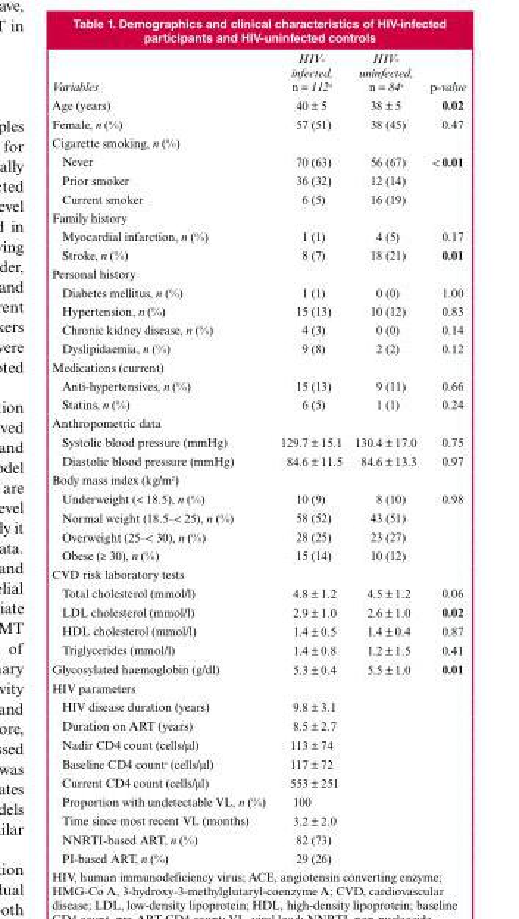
<table><thead><tr><td>Variables</td><td>HIV- infected, n = 112<sup>a</sup></td><td>HIV- uninfected, n = 84<sup>a</sup></td><td>p-value</td></tr></thead><tbody><tr><td>Age (years)</td><td>40 ± 5</td><td>38 ± 5</td><td>0.02</td></tr><tr><td>Female, n (%)</td><td>57 (51)</td><td>38 (45)</td><td>0.47</td></tr><tr><td colspan="4">Cigarette smoking, n (%)</td></tr><tr><td>Never</td><td>70 (63)</td><td>56 (67)</td><td>&lt; 0.01</td></tr><tr><td>Prior smoker</td><td>36 (32)</td><td>12 (14)</td><td></td></tr><tr><td>Current smoker</td><td>6 (5)</td><td>16 (19)</td><td></td></tr><tr><td colspan="4">Family history</td></tr><tr><td>Myocardial infarction, n (%)</td><td>1 (1)</td><td>4 (5)</td><td>0.17</td></tr><tr><td>Stroke, n (%)</td><td>8 (7)</td><td>18 (21)</td><td>0.01</td></tr><tr><td colspan="4">Personal history</td></tr><tr><td>Diabetes mellitus, n (%)</td><td>1 (1)</td><td>0 (0)</td><td>1.00</td></tr><tr><td>Hypertension, n (%)</td><td>15 (13)</td><td>10 (12)</td><td>0.83</td></tr><tr><td>Chronic kidney disease, n (%)</td><td>4 (3)</td><td>0 (0)</td><td>0.14</td></tr><tr><td>Dyslipidaemia, n (%)</td><td>9 (8)</td><td>2 (2)</td><td>0.12</td></tr><tr><td colspan="4">Medications (current)</td></tr><tr><td>Anti-hypertensives, n (%)</td><td>15 (13)</td><td>9 (11)</td><td>0.66</td></tr><tr><td>Statins, n (%)</td><td>6 (5)</td><td>1 (1)</td><td>0.24</td></tr><tr><td colspan="4">Anthropometric data</td></tr><tr><td>Systolic blood pressure (mmHg)</td><td>129.7 ± 15.1</td><td>130.4 ± 17.0</td><td>0.75</td></tr><tr><td>Diastolic blood pressure (mmHg)</td><td>84.6 ± 11.5</td><td>84.6 ± 13.3</td><td>0.97</td></tr><tr><td colspan="4">Body mass index (kg/m<sup>2</sup>)</td></tr><tr><td>Underweight (&lt; 18.5), n (%)</td><td>10 (9)</td><td>8 (10)</td><td>0.98</td></tr><tr><td>Normal weight (18.5–&lt; 25), n (%)</td><td>58 (52)</td><td>43 (51)</td><td></td></tr><tr><td>Overweight (25–&lt; 30), n (%)</td><td>28 (25)</td><td>23 (27)</td><td></td></tr><tr><td>Obese (≥ 30), n (%)</td><td>15 (14)</td><td>10 (12)</td><td></td></tr><tr><td colspan="4">CVD risk laboratory tests</td></tr><tr><td>Total cholesterol (mmol/l)</td><td>4.8 ± 1.2</td><td>4.5 ± 1.2</td><td>0.06</td></tr><tr><td>LDL cholesterol (mmol/l)</td><td>2.9 ± 1.0</td><td>2.6 ± 1.0</td><td>0.02</td></tr><tr><td>HDL cholesterol (mmol/l)</td><td>1.4 ± 0.5</td><td>1.4 ± 0.4</td><td>0.87</td></tr><tr><td>Triglycerides (mmol/l)</td><td>1.4 ± 0.8</td><td>1.2 ± 1.5</td><td>0.41</td></tr><tr><td>Glycosylated haemoglobin (g/dl)</td><td>5.3 ± 0.4</td><td>5.5 ± 1.0</td><td>0.01</td></tr><tr><td colspan="4">HIV parameters</td></tr><tr><td>HIV disease duration (years)</td><td>9.8 ± 3.1</td><td></td><td></td></tr><tr><td>Duration on ART (years)</td><td>8.5 ± 2.7</td><td></td><td></td></tr><tr><td>Nadir CD4 count (cells/μl)</td><td>113 ± 74</td><td></td><td></td></tr><tr><td>Baseline CD4 countc (cells/μl)</td><td>117 ± 72</td><td></td><td></td></tr><tr><td>Current CD4 count (cells/μl)</td><td>553 ± 251</td><td></td><td></td></tr><tr><td>Proportion with undetectable VL, n (%)</td><td>100</td><td></td><td></td></tr><tr><td>Time since most recent VL (months)</td><td>3.2 ± 2.0</td><td></td><td></td></tr><tr><td>NNRTI-based ART, n (%)</td><td>82 (73)</td><td></td><td></td></tr><tr><td>PI-based ART, n (%)</td><td>29 (26)</td><td></td><td></td></tr></tbody></table>